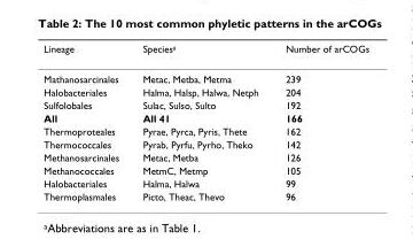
<table><thead><tr><td>Lineage</td><td>Species<sup>a</sup></td><td>Number of arCOGs</td></tr></thead><tbody><tr><td>Mathanosarcinales</td><td>Metac, Metba, Metma</td><td>239</td></tr><tr><td>Halobacteriales</td><td>Halma, Halsp, Halwa, Netph</td><td>204</td></tr><tr><td>Sulfolobales</td><td>Sulac, Sulso, Sulto</td><td>192</td></tr><tr><td>All</td><td>All 41</td><td>166</td></tr><tr><td>Thermoproteales</td><td>Pyrae, Pyrca, Pyris, Thete</td><td>162</td></tr><tr><td>Thermococcales</td><td>Pyrab, Pyrfu, Pyrho, Theko</td><td>142</td></tr><tr><td>Methanosarcinales</td><td>Metac, Metba</td><td>126</td></tr><tr><td>Methanococcales</td><td>MetmC, Metmp</td><td>105</td></tr><tr><td>Halobacteriales</td><td>Halma, Halwa</td><td>99</td></tr><tr><td>Thermoplasmales</td><td>Picto, Theac, Thevo</td><td>96</td></tr></tbody></table>